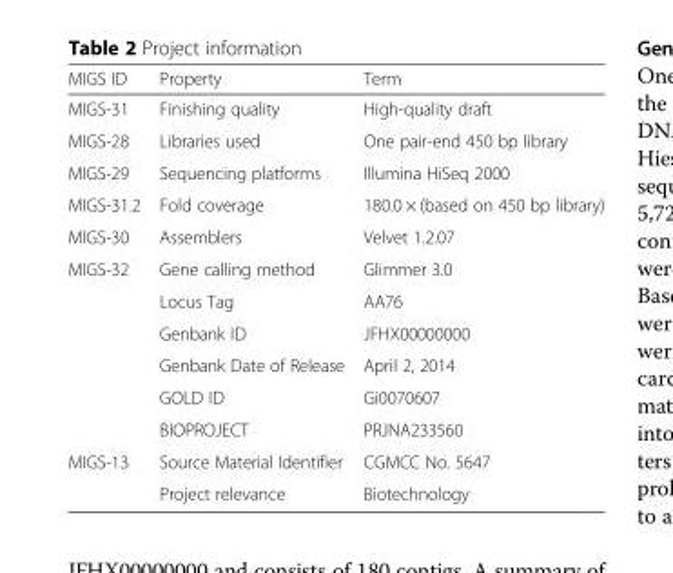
<table><thead><tr><td>MIGS ID</td><td>Property</td><td>Term</td></tr></thead><tbody><tr><td>MIGS-31</td><td>Finishing quality</td><td>High-quality draft</td></tr><tr><td>MIGS-28</td><td>Libraries used</td><td>One pair-end 450 bp library</td></tr><tr><td>MIGS-29</td><td>Sequencing platforms</td><td>Illumina HiSeq 2000</td></tr><tr><td>MIGS-31.2</td><td>Fold coverage</td><td>180.0 × (based on 450 bp library)</td></tr><tr><td>MIGS-30</td><td>Assemblers</td><td>Velvet 1.2.07</td></tr><tr><td rowspan="6">MIGS-32</td><td>Gene calling method</td><td>Glimmer 3.0</td></tr><tr><td>Locus Tag</td><td>AA76</td></tr><tr><td>Genbank ID</td><td>JFHX00000000</td></tr><tr><td>Genbank Date of Release</td><td>April 2, 2014</td></tr><tr><td>GOLD ID</td><td>Gi0070607</td></tr><tr><td>BIOPROJECT</td><td>PRJNA233560</td></tr><tr><td rowspan="2">MIGS-13</td><td>Source Material Identifier</td><td>CGMCC No. 5647</td></tr><tr><td>Project relevance</td><td>Biotechnology</td></tr></tbody></table>